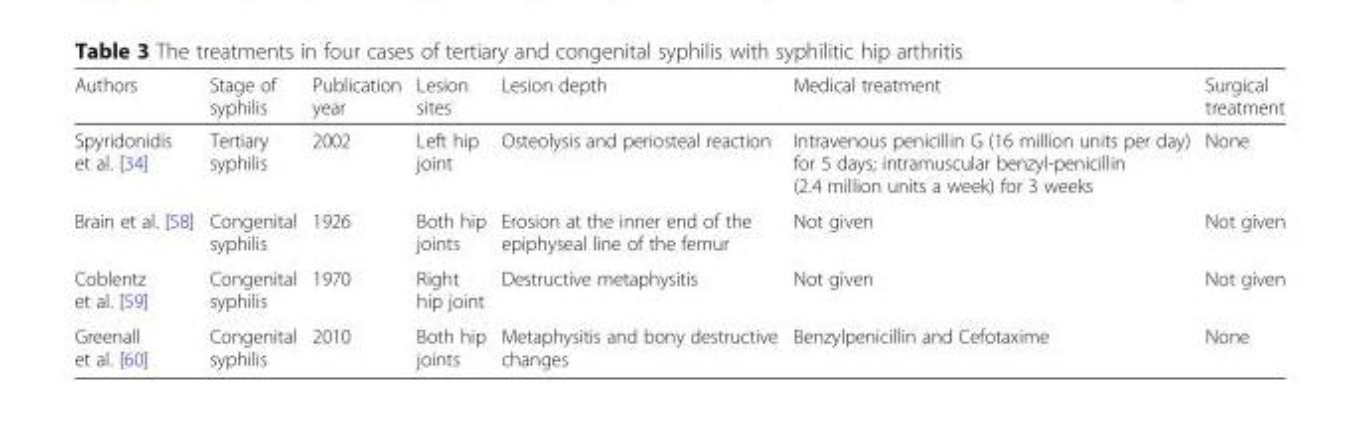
<table><thead><tr><td>Authors</td><td>Stage of syphilis</td><td>Publication year</td><td>Lesion sites</td><td>Lesion depth</td><td>Medical treatment</td><td>Surgical treatment</td></tr></thead><tbody><tr><td>Spyridonidis et al. [34]</td><td>Tertiary syphilis</td><td>2002</td><td>Left hip joint</td><td>Osteolysis and periosteal reaction</td><td>Intravenous penicillin G (16 million units per day) for 5 days; intramuscular benzyl-penicillin (2.4 million units a week) for 3 weeks</td><td>None</td></tr><tr><td>Brain et al. [58]</td><td>Congenital syphilis</td><td>1926</td><td>Both hip joints</td><td>Erosion at the inner end of the epiphyseal line of the femur</td><td>Not given</td><td>Not given</td></tr><tr><td>Coblentz et al. [59]</td><td>Congenital syphilis</td><td>1970</td><td>Right hip joint</td><td>Destructive metaphysitis</td><td>Not given</td><td>Not given</td></tr><tr><td>Greenall et al. [60]</td><td>Congenital syphilis</td><td>2010</td><td>Both hip joints</td><td>Metaphysitis and bony destructive changes</td><td>Benzylpenicillin and Cefotaxime</td><td>None</td></tr></tbody></table>